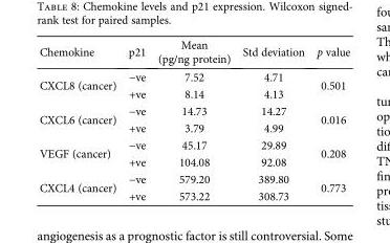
<table><thead><tr><td>Chemokine</td><td>p21</td><td>Mean (pg/ng protein)</td><td>Std deviation</td><td>p value</td></tr></thead><tbody><tr><td rowspan="2">CXCL8 (cancer)</td><td>−ve</td><td>7.52</td><td>4.71</td><td rowspan="2">0.501</td></tr><tr><td>+ve</td><td>8.14</td><td>4.13</td></tr><tr><td rowspan="2">CXCL6 (cancer)</td><td>−ve</td><td>14.73</td><td>14.27</td><td rowspan="2">0.016</td></tr><tr><td>+ve</td><td>3.79</td><td>4.99</td></tr><tr><td rowspan="2">VEGF (cancer)</td><td>−ve</td><td>45.17</td><td>29.89</td><td rowspan="2">0.208</td></tr><tr><td>+ve</td><td>104.08</td><td>92.08</td></tr><tr><td rowspan="2">CXCL4 (cancer)</td><td>−ve</td><td>579.20</td><td>389.80</td><td rowspan="2">0.773</td></tr><tr><td>+ve</td><td>573.22</td><td>308.73</td></tr></tbody></table>